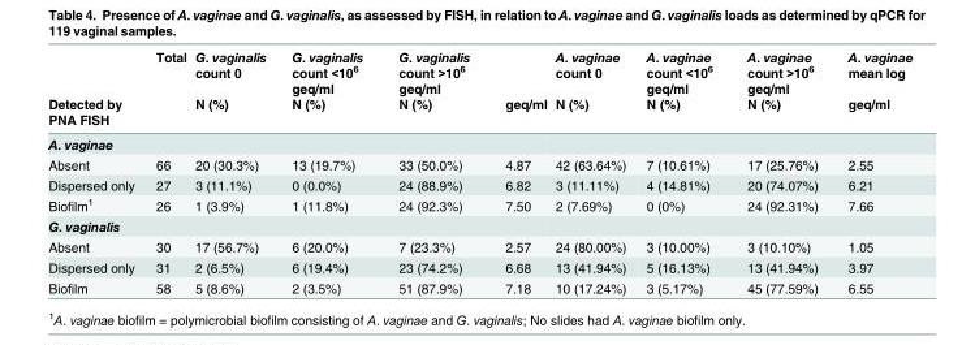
<table><thead><tr><td rowspan="2">Detected by PNA FISH</td><td rowspan="2">Total</td><td rowspan="2">G. vaginalis count 0 N (%)</td><td rowspan="2">G. vaginalis count &lt;10<sup>6</sup> geq/ml N (%)</td><td rowspan="2">G. vaginalis count &gt;10<sup>6</sup> geq/ml N (%)</td><td rowspan="2">geq/ml</td><td rowspan="2">A. vaginae count 0 N (%)</td><td rowspan="2">A. vaginae count &lt;10<sup>6</sup> geq/ml N (%)</td><td rowspan="2">A. vaginae count &gt;10<sup>6</sup> geq/ml N (%)</td><td rowspan="2">A. vaginae mean log geq/ml</td></tr><tr></tr></thead><tbody><tr><td colspan="10">A. vaginae</td></tr><tr><td>Absent</td><td>66</td><td>20 (30.3%)</td><td>13 (19.7%)</td><td>33 (50.0%)</td><td>4.87</td><td>42 (63.64%)</td><td>7 (10.61%)</td><td>17 (25.76%)</td><td>2.55</td></tr><tr><td>Dispersed only</td><td>27</td><td>3 (11.1%)</td><td>0 (0.0%)</td><td>24 (88.9%)</td><td>6.82</td><td>3 (11.11%)</td><td>4 (14.81%)</td><td>20 (74.07%)</td><td>6.21</td></tr><tr><td>Biofilm<sup>1</sup></td><td>26</td><td>1 (3.9%)</td><td>1 (11.8%)</td><td>24 (92.3%)</td><td>7.50</td><td>2 (7.69%)</td><td>0 (0%)</td><td>24 (92.31%)</td><td>7.66</td></tr><tr><td colspan="10">G. vaginalis</td></tr><tr><td>Absent</td><td>30</td><td>17 (56.7%)</td><td>6 (20.0%)</td><td>7 (23.3%)</td><td>2.57</td><td>24 (80.00%)</td><td>3 (10.00%)</td><td>3 (10.10%)</td><td>1.05</td></tr><tr><td>Dispersed only</td><td>31</td><td>2 (6.5%)</td><td>6 (19.4%)</td><td>23 (74.2%)</td><td>6.68</td><td>13 (41.94%)</td><td>5 (16.13%)</td><td>13 (41.94%)</td><td>3.97</td></tr><tr><td>Biofilm</td><td>58</td><td>5 (8.6%)</td><td>2 (3.5%)</td><td>51 (87.9%)</td><td>7.18</td><td>10 (17.24%)</td><td>3 (5.17%)</td><td>45 (77.59%)</td><td>6.55</td></tr></tbody></table>